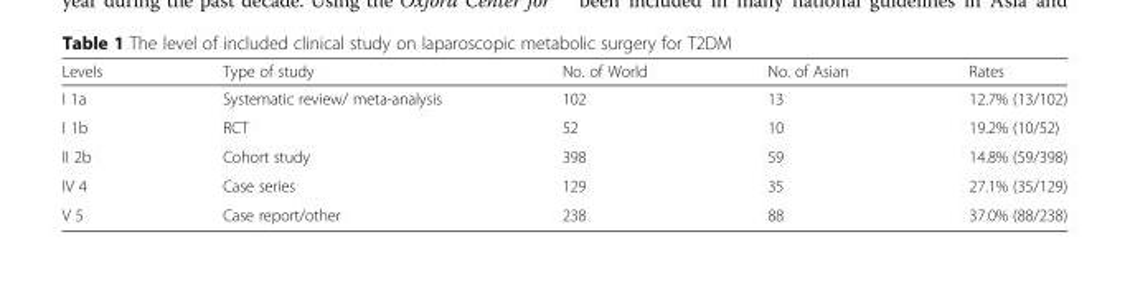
<table><thead><tr><td>Levels</td><td>Type of study</td><td>No. of World</td><td>No. of Asian</td><td>Rates</td></tr></thead><tbody><tr><td>I 1a</td><td>Systematic review/ meta-analysis</td><td>102</td><td>13</td><td>12.7% (13/102)</td></tr><tr><td>I 1b</td><td>RCT</td><td>52</td><td>10</td><td>19.2% (10/52)</td></tr><tr><td>II 2b</td><td>Cohort study</td><td>398</td><td>59</td><td>14.8% (59/398)</td></tr><tr><td>IV 4</td><td>Case series</td><td>129</td><td>35</td><td>27.1% (35/129)</td></tr><tr><td>V 5</td><td>Case report/other</td><td>238</td><td>88</td><td>37.0% (88/238)</td></tr></tbody></table>